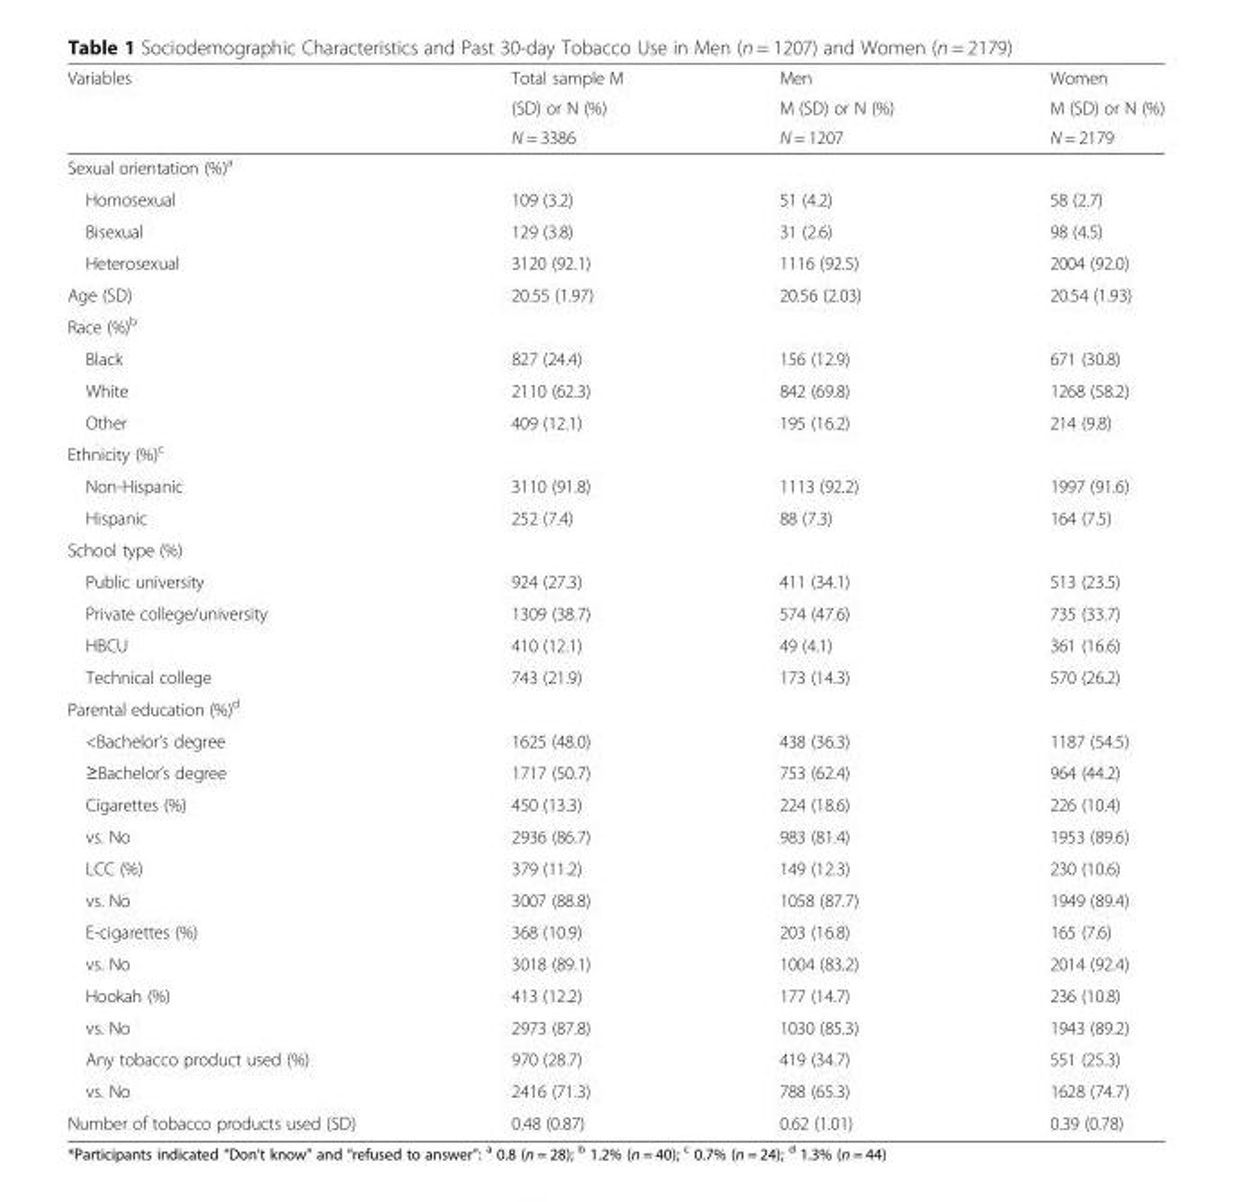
<table><thead><tr><td rowspan="3">Variables</td><td rowspan="3">Total sample M (SD) or N (%) N = 3386</td><td rowspan="3">Men M (SD) or N (%) N = 1207</td><td rowspan="3">Women M (SD) or N (%) N = 2179</td></tr><tr></tr><tr></tr></thead><tbody><tr><td colspan="4">Sexual orientation (%)<sup>a</sup></td></tr><tr><td>Homosexual</td><td>109 (3.2)</td><td>51 (4.2)</td><td>58 (2.7)</td></tr><tr><td>Bisexual</td><td>129 (3.8)</td><td>31 (2.6)</td><td>98 (4.5)</td></tr><tr><td>Heterosexual</td><td>3120 (92.1)</td><td>1116 (92.5)</td><td>2004 (92.0)</td></tr><tr><td>Age (SD)</td><td>20.55 (1.97)</td><td>20.56 (2.03)</td><td>20.54 (1.93)</td></tr><tr><td colspan="4">Race (%)<sup>b</sup></td></tr><tr><td>Black</td><td>827 (24.4)</td><td>156 (12.9)</td><td>671 (30.8)</td></tr><tr><td>White</td><td>2110 (62.3)</td><td>842 (69.8)</td><td>1268 (58.2)</td></tr><tr><td>Other</td><td>409 (12.1)</td><td>195 (16.2)</td><td>214 (9.8)</td></tr><tr><td colspan="4">Ethnicity (%)<sup>c</sup></td></tr><tr><td>Non-Hispanic</td><td>3110 (91.8)</td><td>1113 (92.2)</td><td>1997 (91.6)</td></tr><tr><td>Hispanic</td><td>252 (7.4)</td><td>88 (7.3)</td><td>164 (7.5)</td></tr><tr><td colspan="4">School type (%)</td></tr><tr><td>Public university</td><td>924 (27.3)</td><td>411 (34.1)</td><td>513 (23.5)</td></tr><tr><td>Private college/university</td><td>1309 (38.7)</td><td>574 (47.6)</td><td>735 (33.7)</td></tr><tr><td>HBCU</td><td>410 (12.1)</td><td>49 (4.1)</td><td>361 (16.6)</td></tr><tr><td>Technical college</td><td>743 (21.9)</td><td>173 (14.3)</td><td>570 (26.2)</td></tr><tr><td colspan="4">Parental education (%)<sup>d</sup></td></tr><tr><td>&lt;Bachelor’s degree</td><td>1625 (48.0)</td><td>438 (36.3)</td><td>1187 (54.5)</td></tr><tr><td>≥Bachelor’s degree</td><td>1717 (50.7)</td><td>753 (62.4)</td><td>964 (44.2)</td></tr><tr><td>Cigarettes (%)</td><td>450 (13.3)</td><td>224 (18.6)</td><td>226 (10.4)</td></tr><tr><td>vs. No</td><td>2936 (86.7)</td><td>983 (81.4)</td><td>1953 (89.6)</td></tr><tr><td>LCC (%)</td><td>379 (11.2)</td><td>149 (12.3)</td><td>230 (10.6)</td></tr><tr><td>vs. No</td><td>3007 (88.8)</td><td>1058 (87.7)</td><td>1949 (89.4)</td></tr><tr><td>E-cigarettes (%)</td><td>368 (10.9)</td><td>203 (16.8)</td><td>165 (7.6)</td></tr><tr><td>vs. No</td><td>3018 (89.1)</td><td>1004 (83.2)</td><td>2014 (92.4)</td></tr><tr><td>Hookah (%)</td><td>413 (12.2)</td><td>177 (14.7)</td><td>236 (10.8)</td></tr><tr><td>vs. No</td><td>2973 (87.8)</td><td>1030 (85.3)</td><td>1943 (89.2)</td></tr><tr><td>Any tobacco product used (%)</td><td>970 (28.7)</td><td>419 (34.7)</td><td>551 (25.3)</td></tr><tr><td>vs. No</td><td>2416 (71.3)</td><td>788 (65.3)</td><td>1628 (74.7)</td></tr><tr><td>Number of tobacco products used (SD)</td><td>0.48 (0.87)</td><td>0.62 (1.01)</td><td>0.39 (0.78)</td></tr></tbody></table>